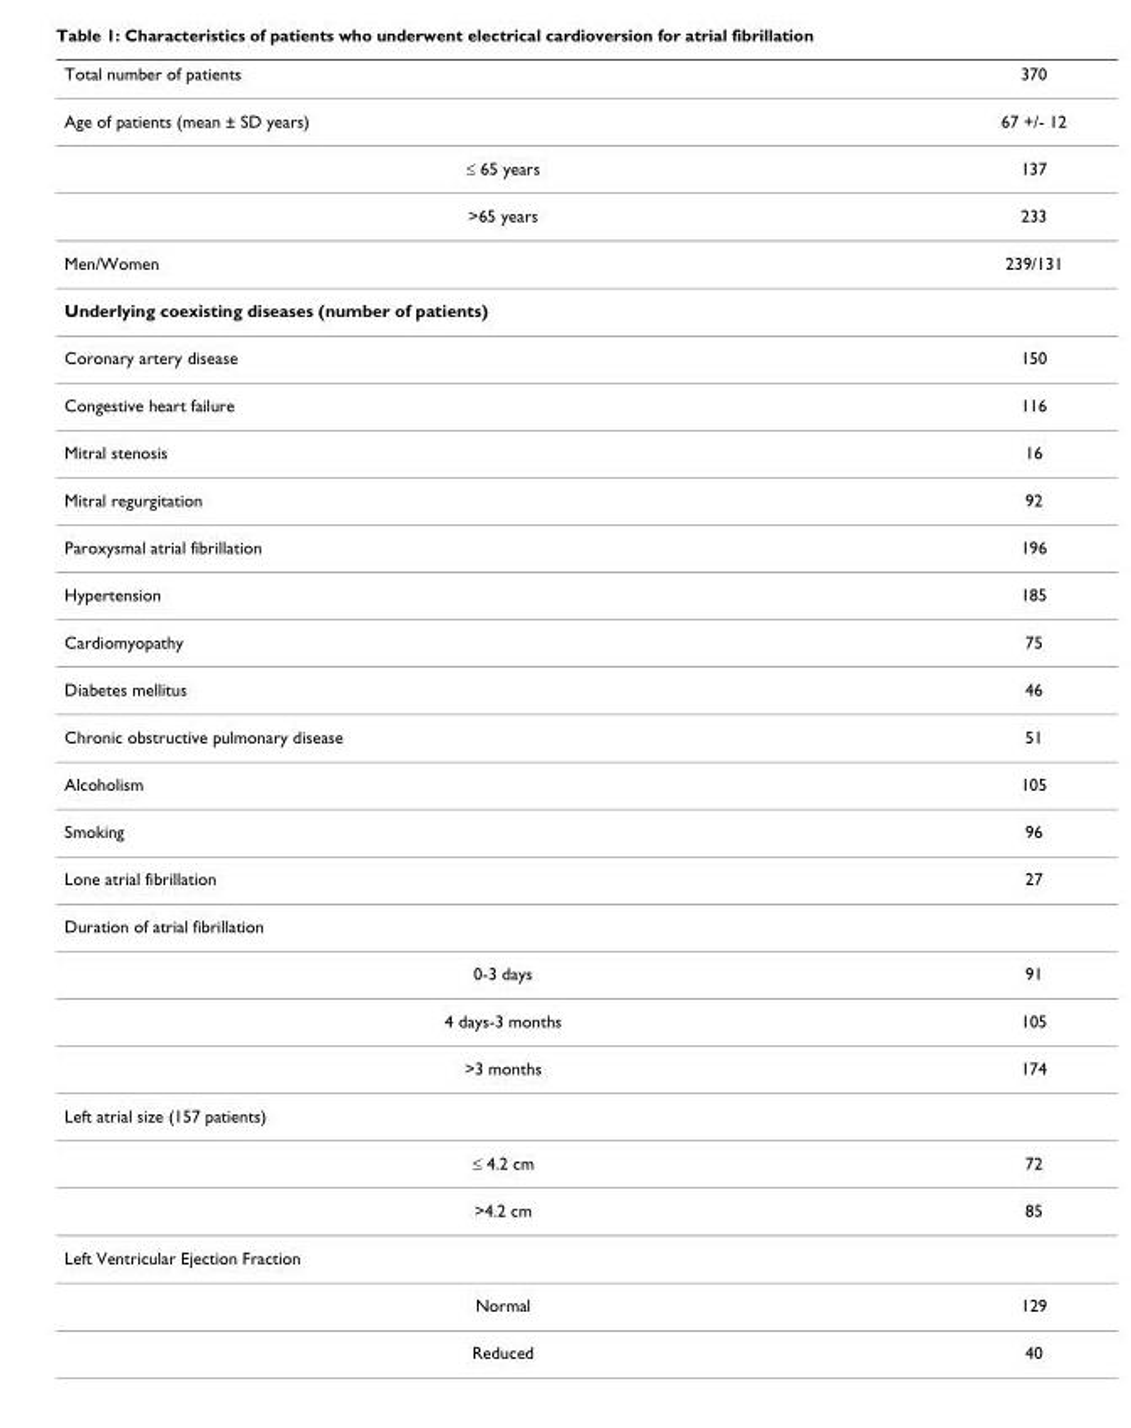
<table><thead><tr><td>Total number of patients</td><td>370</td></tr></thead><tbody><tr><td>Age of patients (mean ± SD years)</td><td>67 +/- 12</td></tr><tr><td>≤ 65 years</td><td>137</td></tr><tr><td>&gt;65 years</td><td>233</td></tr><tr><td>Men/Women</td><td>239/131</td></tr><tr><td colspan="2">Underlying coexisting diseases (number of patients)</td></tr><tr><td>Coronary artery disease</td><td>150</td></tr><tr><td>Congestive heart failure</td><td>116</td></tr><tr><td>Mitral stenosis</td><td>16</td></tr><tr><td>Mitral regurgitation</td><td>92</td></tr><tr><td>Paroxysmal atrial fibrillation</td><td>196</td></tr><tr><td>Hypertension</td><td>185</td></tr><tr><td>Cardiomyopathy</td><td>75</td></tr><tr><td>Diabetes mellitus</td><td>46</td></tr><tr><td>Chronic obstructive pulmonary disease</td><td>51</td></tr><tr><td>Alcoholism</td><td>105</td></tr><tr><td>Smoking</td><td>96</td></tr><tr><td>Lone atrial fibrillation</td><td>27</td></tr><tr><td colspan="2">Duration of atrial fibrillation</td></tr><tr><td>0-3 days</td><td>91</td></tr><tr><td>4 days-3 months</td><td>105</td></tr><tr><td>&gt;3 months</td><td>174</td></tr><tr><td colspan="2">Left atrial size (157 patients)</td></tr><tr><td>≤ 4.2 cm</td><td>72</td></tr><tr><td>&gt;4.2 cm</td><td>85</td></tr><tr><td colspan="2">Left Ventricular Ejection Fraction</td></tr><tr><td>Normal</td><td>129</td></tr><tr><td>Reduced</td><td>40</td></tr></tbody></table>